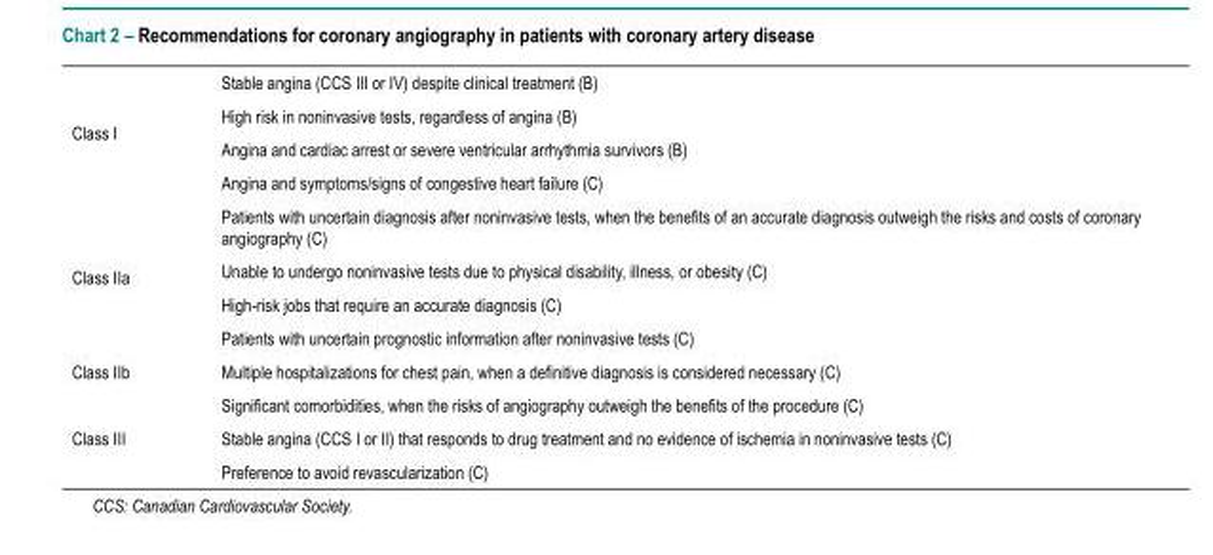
<table><tbody><tr><td rowspan="4">Class I</td><td>Stable angina (CCS III or IV) despite clinical treatment (B)</td></tr><tr><td>High risk in noninvasive tests, regardless of angina (B)</td></tr><tr><td>Angina and cardiac arrest or severe ventricular arrhythmia survivors (B)</td></tr><tr><td>Angina and symptoms/signs of congestive heart failure (C)</td></tr><tr><td rowspan="4">Class IIa</td><td>Patients with uncertain diagnosis after noninvasive tests, when the benefits of an accurate diagnosis outweigh the risks and costs of coronary angiography (C)</td></tr><tr><td>Unable to undergo noninvasive tests due to physical disability, illness, or obesity (C)</td></tr><tr><td>High-risk jobs that require an accurate diagnosis (C)</td></tr><tr><td>Patients with uncertain prognostic information after noninvasive tests (C)</td></tr><tr><td>Class IIb</td><td>Multiple hospitalizations for chest pain, when a definitive diagnosis is considered necessary (C)</td></tr><tr><td rowspan="3">Class III</td><td>Significant comorbidities, when the risks of angiography outweigh the benefits of the procedure (C)</td></tr><tr><td>Stable angina (CCS I or II) that responds to drug treatment and no evidence of ischemia in noninvasive tests (C)</td></tr><tr><td>Preference to avoid revascularization (C)</td></tr></tbody></table>